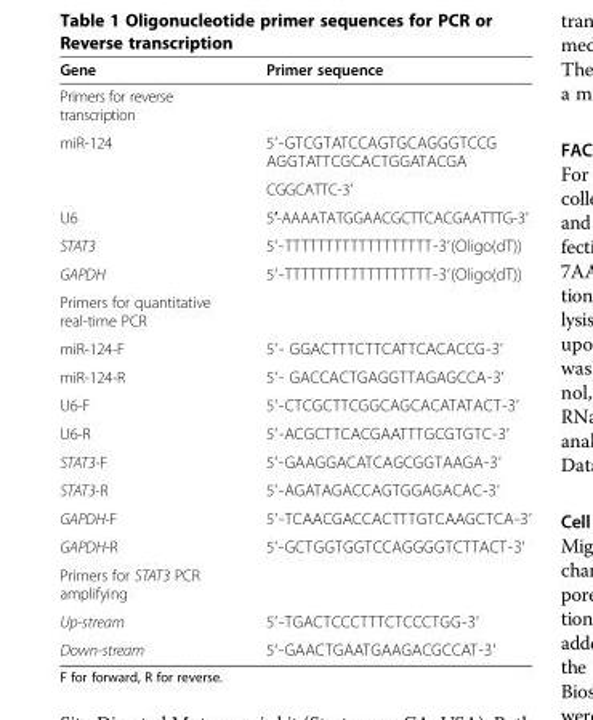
<table><thead><tr><td>Gene</td><td>Primer sequence</td></tr></thead><tbody><tr><td colspan="2">Primers for reverse transcription</td></tr><tr><td rowspan="2">miR-124</td><td>5′-GTCGTATCCAGTGCAGGGTCCG AGGTATTCGCACTGGATACGA</td></tr><tr><td>CGGCATTC-3′</td></tr><tr><td>U6</td><td>5′-AAAATATGGAACGCTTCACGAATTTG-3′</td></tr><tr><td>STAT3</td><td>5′-TTTTTTTTTTTTTTTTTT-3′(Oligo(dT))</td></tr><tr><td>GAPDH</td><td>5′-TTTTTTTTTTTTTTTTTT-3′(Oligo(dT))</td></tr><tr><td colspan="2">Primers for quantitative real-time PCR</td></tr><tr><td>miR-124-F</td><td>5′- GGACTTTCTTCATTCACACCG-3′</td></tr><tr><td>miR-124-R</td><td>5′- GACCACTGAGGTTAGAGCCA-3′</td></tr><tr><td>U6-F</td><td>5′-CTCGCTTCGGCAGCACATATACT-3′</td></tr><tr><td>U6-R</td><td>5′-ACGCTTCACGAATTTGCGTGTC-3′</td></tr><tr><td>STAT3-F</td><td>5′-GAAGGACATCAGCGGTAAGA-3′</td></tr><tr><td>STAT3-R</td><td>5′-AGATAGACCAGTGGAGACAC-3′</td></tr><tr><td>GAPDH-F</td><td>5′-TCAACGACCACTTTGTCAAGCTCA-3′</td></tr><tr><td>GAPDH-R</td><td>5′-GCTGGTGGTCCAGGGGTCTTACT-3′</td></tr><tr><td colspan="2">Primers for STAT3 PCR amplifying</td></tr><tr><td>Up-stream</td><td>5′-TGACTCCCTTTCTCCCTGG-3′</td></tr><tr><td>Down-stream</td><td>5′-GAACTGAATGAAGACGCCAT-3′</td></tr></tbody></table>